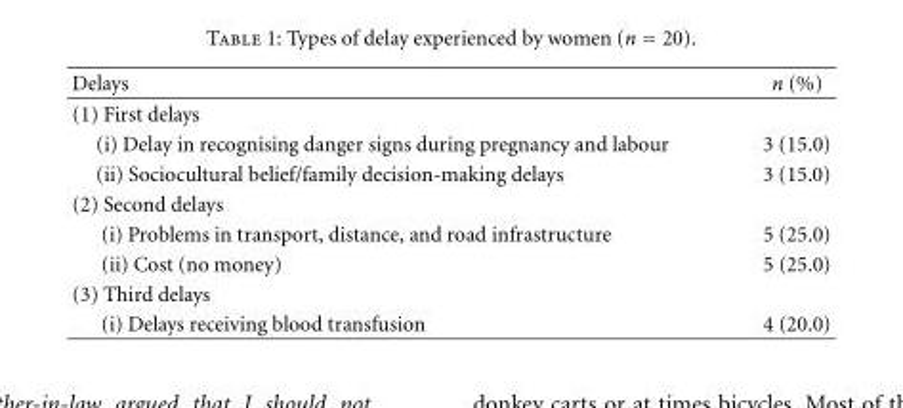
<table><thead><tr><td>Delays</td><td>n (%)</td></tr></thead><tbody><tr><td colspan="2">(1) First delays</td></tr><tr><td>(i) Delay in recognising danger signs during pregnancy and labour</td><td>3 (15.0)</td></tr><tr><td>(ii) Sociocultural belief/family decision-making delays</td><td>3 (15.0)</td></tr><tr><td colspan="2">(2) Second delays</td></tr><tr><td>(i) Problems in transport, distance, and road infrastructure</td><td>5 (25.0)</td></tr><tr><td>(ii) Cost (no money)</td><td>5 (25.0)</td></tr><tr><td colspan="2">(3) Third delays</td></tr><tr><td>(i) Delays receiving blood transfusion</td><td>4 (20.0)</td></tr></tbody></table>